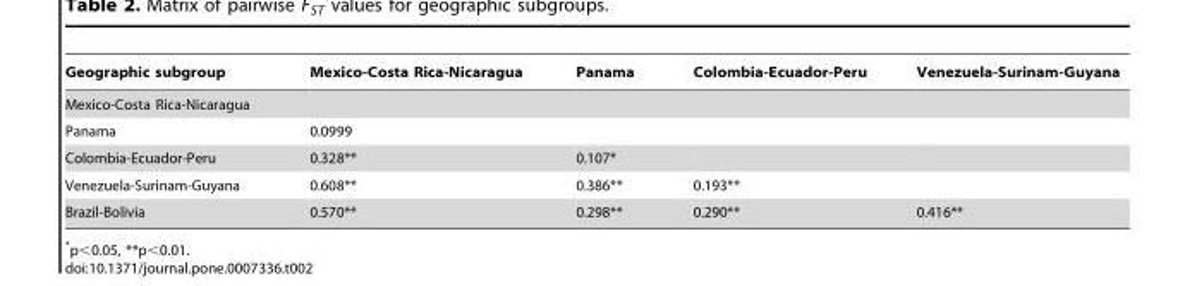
<table><thead><tr><td>Geographic subgroup</td><td>Mexico-Costa Rica-Nicaragua</td><td>Panama</td><td>Colombia-Ecuador-Peru</td><td>Venezuela-Surinam-Guyana</td></tr></thead><tbody><tr><td colspan="5">Mexico-Costa Rica-Nicaragua</td></tr><tr><td>Panama</td><td>0.0999</td><td></td><td></td><td></td></tr><tr><td>Colombia-Ecuador-Peru</td><td>0.328**</td><td>0.107*</td><td></td><td></td></tr><tr><td>Venezuela-Surinam-Guyana</td><td>0.608**</td><td>0.386**</td><td>0.193**</td><td></td></tr><tr><td>Brazil-Bolivia</td><td>0.570**</td><td>0.298**</td><td>0.290**</td><td>0.416**</td></tr></tbody></table>